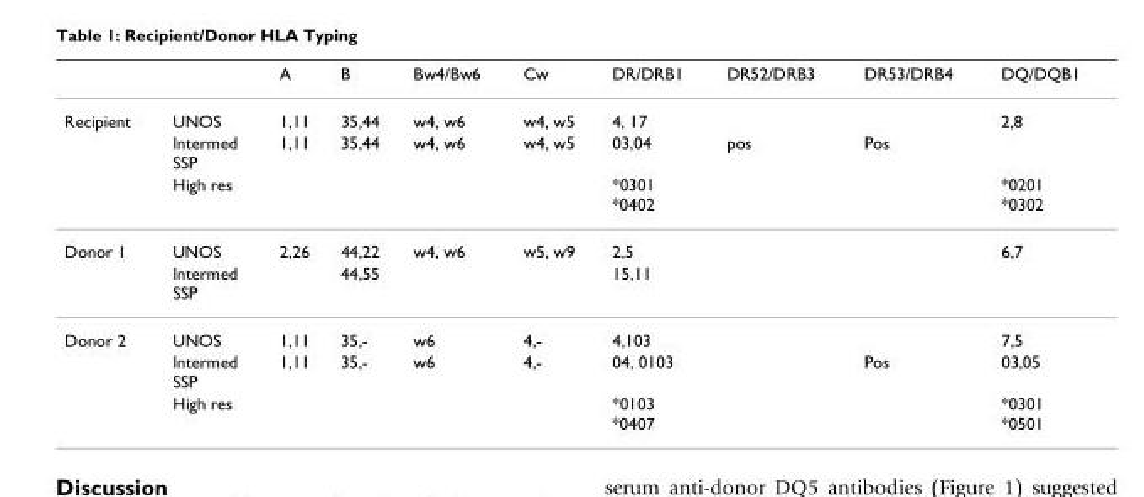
<table><thead><tr><td></td><td></td><td>A</td><td>B</td><td>Bw4/Bw6</td><td>Cw</td><td>DR/DRB1</td><td>DR52/DRB3</td><td>DR53/DRB4</td><td>DQ/DQB1</td></tr></thead><tbody><tr><td rowspan="3">Recipient</td><td>UNOS</td><td>1,11</td><td>35,44</td><td>w4, w6</td><td>w4, w5</td><td>4, 17</td><td></td><td></td><td>2,8</td></tr><tr><td>Intermed SSP</td><td>1,11</td><td>35,44</td><td>w4, w6</td><td>w4, w5</td><td>03,04</td><td>pos</td><td>Pos</td><td></td></tr><tr><td>High res</td><td></td><td></td><td></td><td></td><td>*0301 *0402</td><td></td><td></td><td>*0201 *0302</td></tr><tr><td rowspan="2">Donor 1</td><td>UNOS</td><td>2,26</td><td>44,22</td><td>w4, w6</td><td>w5, w9</td><td>2,5</td><td></td><td></td><td>6,7</td></tr><tr><td>Intermed SSP</td><td></td><td>44,55</td><td></td><td></td><td>15,11</td><td></td><td></td><td></td></tr><tr><td rowspan="3">Donor 2</td><td>UNOS</td><td>1,11</td><td>35,-</td><td>w6</td><td>4,-</td><td>4,103</td><td></td><td></td><td>7,5</td></tr><tr><td>Intermed SSP</td><td>1,11</td><td>35,-</td><td>w6</td><td>4,-</td><td>04, 0103</td><td></td><td>Pos</td><td>03,05</td></tr><tr><td>High res</td><td></td><td></td><td></td><td></td><td>*0103 *0407</td><td></td><td></td><td>*0301 *0501</td></tr></tbody></table>